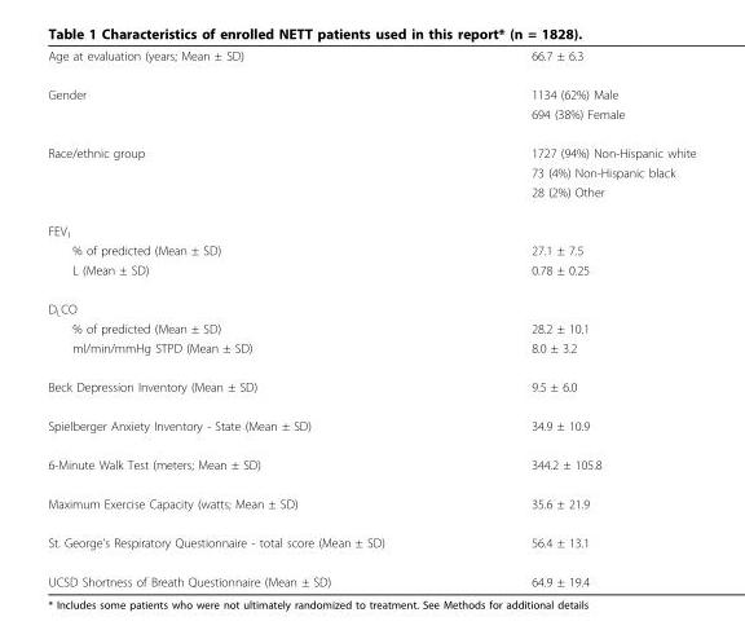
<table><tbody><tr><td>Age at evaluation (years; Mean ± SD)</td><td>66.7 ± 6.3</td></tr><tr><td rowspan="2">Gender</td><td>1134 (62%) Male</td></tr><tr><td>694 (38%) Female</td></tr><tr><td rowspan="3">Race/ethnic group</td><td>1727 (94%) Non-Hispanic white</td></tr><tr><td>73 (4%) Non-Hispanic black</td></tr><tr><td>28 (2%) Other</td></tr><tr><td colspan="2">FEV<sub>1</sub></td></tr><tr><td>% of predicted (Mean ± SD)</td><td>27.1 ± 7.5</td></tr><tr><td>L (Mean ± SD)</td><td>0.78 ± 0.25</td></tr><tr><td colspan="2">D<sub>L</sub>CO</td></tr><tr><td>% of predicted (Mean ± SD)</td><td>28.2 ± 10.1</td></tr><tr><td>ml/min/mmHg STPD (Mean ± SD)</td><td>8.0 ± 3.2</td></tr><tr><td>Beck Depression Inventory (Mean ± SD)</td><td>9.5 ± 6.0</td></tr><tr><td>Spielberger Anxiety Inventory - State (Mean ± SD)</td><td>34.9 ± 10.9</td></tr><tr><td>6-Minute Walk Test (meters; Mean ± SD)</td><td>344.2 ± 105.8</td></tr><tr><td>Maximum Exercise Capacity (watts; Mean ± SD)</td><td>35.6 ± 21.9</td></tr><tr><td>St. George’s Respiratory Questionnaire - total score (Mean ± SD)</td><td>56.4 ± 13.1</td></tr><tr><td>UCSD Shortness of Breath Questionnaire (Mean ± SD)</td><td>64.9 ± 19.4</td></tr></tbody></table>